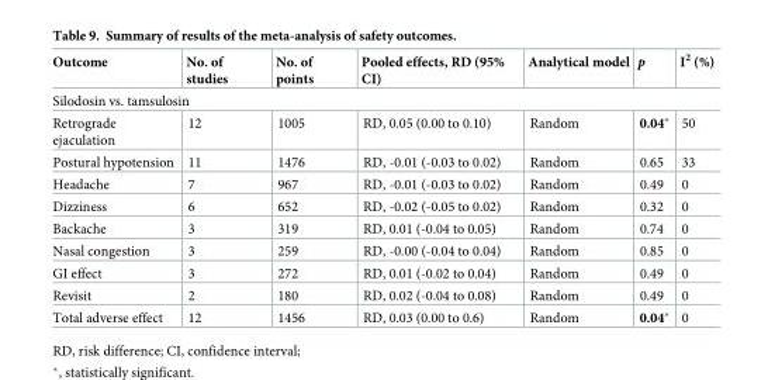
<table><thead><tr><td>Outcome</td><td>No. of studies</td><td>No. of points</td><td>Pooled effects, RD (95% CI)</td><td>Analytical model</td><td>p</td><td>I<sup>2</sup> (%)</td></tr></thead><tbody><tr><td colspan="7">Silodosin vs. tamsulosin</td></tr><tr><td>Retrograde ejaculation</td><td>12</td><td>1005</td><td>RD, 0.05 (0.00 to 0.10)</td><td>Random</td><td>0.04*</td><td>50</td></tr><tr><td>Postural hypotension</td><td>11</td><td>1476</td><td>RD, -0.01 (-0.03 to 0.02)</td><td>Random</td><td>0.65</td><td>33</td></tr><tr><td>Headache</td><td>7</td><td>967</td><td>RD, -0.01 (-0.03 to 0.02)</td><td>Random</td><td>0.49</td><td>0</td></tr><tr><td>Dizziness</td><td>6</td><td>652</td><td>RD, -0.02 (-0.05 to 0.02)</td><td>Random</td><td>0.32</td><td>0</td></tr><tr><td>Backache</td><td>3</td><td>319</td><td>RD, 0.01 (-0.04 to 0.05)</td><td>Random</td><td>0.74</td><td>0</td></tr><tr><td>Nasal congestion</td><td>3</td><td>259</td><td>RD, -0.00 (-0.04 to 0.04)</td><td>Random</td><td>0.85</td><td>0</td></tr><tr><td>GI effect</td><td>3</td><td>272</td><td>RD, 0.01 (-0.02 to 0.04)</td><td>Random</td><td>0.49</td><td>0</td></tr><tr><td>Revisit</td><td>2</td><td>180</td><td>RD, 0.02 (-0.04 to 0.08)</td><td>Random</td><td>0.49</td><td>0</td></tr><tr><td>Total adverse effect</td><td>12</td><td>1456</td><td>RD, 0.03 (0.00 to 0.6)</td><td>Random</td><td>0.04*</td><td>0</td></tr></tbody></table>